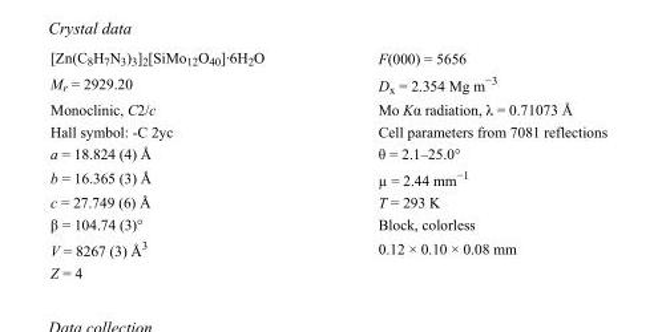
<table><tbody><tr><td>[Zn(C<sub>8</sub>H<sub>7</sub>N<sub>3</sub>)<sub>3</sub>]<sub>2</sub>[SiMo<sub>12</sub>O<sub>40</sub>]·6H<sub>2</sub>O</td><td>F(000) = 5656</td></tr><tr><td>M<sub>r</sub> = 2929.20</td><td>D<sub>x</sub> = 2.354 Mg m<sup>−3</sup></td></tr><tr><td>Monoclinic, C2/c</td><td>Mo Kα radiation, λ = 0.71073 Å</td></tr><tr><td>Hall symbol: -C 2yc</td><td>Cell parameters from 7081 reflections</td></tr><tr><td>a = 18.824 (4) Å</td><td>θ = 2.1–25.0°</td></tr><tr><td>b = 16.365 (3) Å</td><td>µ = 2.44 mm<sup>−1</sup></td></tr><tr><td>c = 27.749 (6) Å</td><td>T = 293 K</td></tr><tr><td>β = 104.74 (3)°</td><td>Block, colorless</td></tr><tr><td>V = 8267 (3) Å<sup>3</sup></td><td>0.12 × 0.10 × 0.08 mm</td></tr><tr><td>Z = 4</td><td></td></tr></tbody></table>